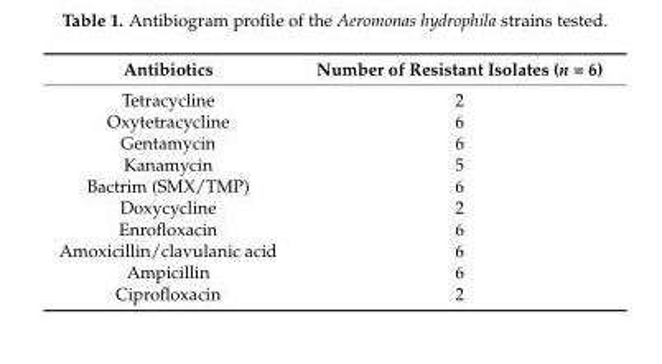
<table><thead><tr><td>Antibiotics</td><td>Number of Resistant Isolates (n = 6)</td></tr></thead><tbody><tr><td>Tetracycline</td><td>2</td></tr><tr><td>Oxytetracycline</td><td>6</td></tr><tr><td>Gentamycin</td><td>6</td></tr><tr><td>Kanamycin</td><td>5</td></tr><tr><td>Bactrim (SMX/TMP)</td><td>6</td></tr><tr><td>Doxycycline</td><td>2</td></tr><tr><td>Enrofloxacin</td><td>6</td></tr><tr><td>Amoxicillin/clavulanic acid</td><td>6</td></tr><tr><td>Ampicillin</td><td>6</td></tr><tr><td>Ciprofloxacin</td><td>2</td></tr></tbody></table>